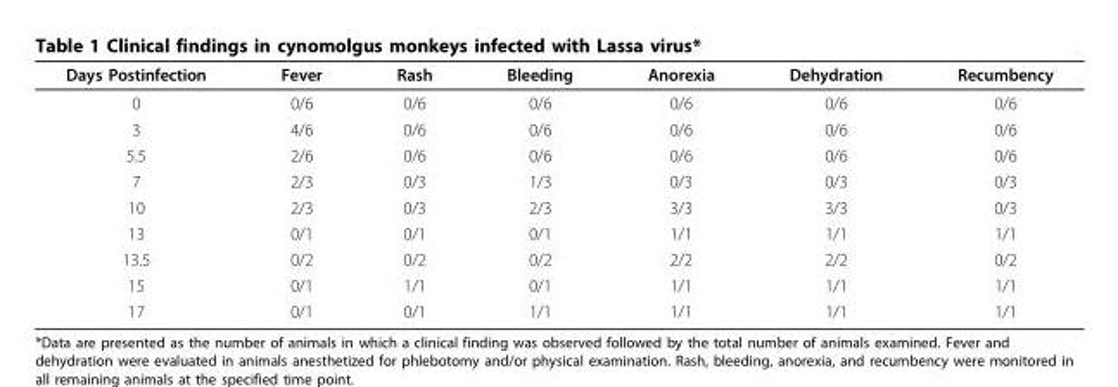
<table><thead><tr><td>Days Postinfection</td><td>Fever</td><td>Rash</td><td>Bleeding</td><td>Anorexia</td><td>Dehydration</td><td>Recumbency</td></tr></thead><tbody><tr><td>0</td><td>0/6</td><td>0/6</td><td>0/6</td><td>0/6</td><td>0/6</td><td>0/6</td></tr><tr><td>3</td><td>4/6</td><td>0/6</td><td>0/6</td><td>0/6</td><td>0/6</td><td>0/6</td></tr><tr><td>5.5</td><td>2/6</td><td>0/6</td><td>0/6</td><td>0/6</td><td>0/6</td><td>0/6</td></tr><tr><td>7</td><td>2/3</td><td>0/3</td><td>1/3</td><td>0/3</td><td>0/3</td><td>0/3</td></tr><tr><td>10</td><td>2/3</td><td>0/3</td><td>2/3</td><td>3/3</td><td>3/3</td><td>0/3</td></tr><tr><td>13</td><td>0/1</td><td>0/1</td><td>0/1</td><td>1/1</td><td>1/1</td><td>1/1</td></tr><tr><td>13.5</td><td>0/2</td><td>0/2</td><td>0/2</td><td>2/2</td><td>2/2</td><td>0/2</td></tr><tr><td>15</td><td>0/1</td><td>1/1</td><td>0/1</td><td>1/1</td><td>1/1</td><td>1/1</td></tr><tr><td>17</td><td>0/1</td><td>0/1</td><td>1/1</td><td>1/1</td><td>1/1</td><td>1/1</td></tr></tbody></table>